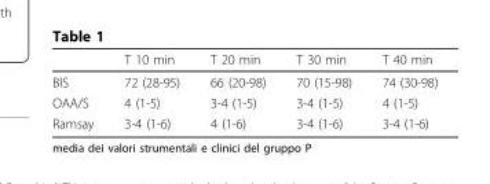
<table><thead><tr><td></td><td>T 10 min</td><td>T 20 min</td><td>T 30 min</td><td>T 40 min</td></tr></thead><tbody><tr><td>BIS</td><td>72 (28-95)</td><td>66 (20-98)</td><td>70 (15-98)</td><td>74 (30-98)</td></tr><tr><td>OAA/S</td><td>4 (1-5)</td><td>3-4 (1-5)</td><td>3-4 (1-5)</td><td>4 (1-5)</td></tr><tr><td>Ramsay</td><td>3-4 (1-6)</td><td>4 (1-6)</td><td>3-4 (1-6)</td><td>3-4 (1-6)</td></tr></tbody></table>